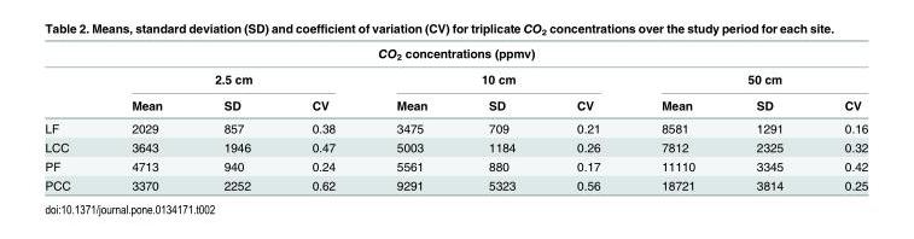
<table><thead><tr><td colspan="10">CO<sub>2</sub> concentrations (ppmv)</td></tr><tr><td rowspan="2"></td><td colspan="3">2.5 cm</td><td colspan="3">10 cm</td><td colspan="3">50 cm</td></tr><tr><td>Mean</td><td>SD</td><td>CV</td><td>Mean</td><td>SD</td><td>CV</td><td>Mean</td><td>SD</td><td>CV</td></tr></thead><tbody><tr><td>LF</td><td>2029</td><td>857</td><td>0.38</td><td>3475</td><td>709</td><td>0.21</td><td>8581</td><td>1291</td><td>0.16</td></tr><tr><td>LCC</td><td>3643</td><td>1946</td><td>0.47</td><td>5003</td><td>1184</td><td>0.26</td><td>7812</td><td>2325</td><td>0.32</td></tr><tr><td>PF</td><td>4713</td><td>940</td><td>0.24</td><td>5561</td><td>880</td><td>0.17</td><td>11110</td><td>3345</td><td>0.42</td></tr><tr><td>PCC</td><td>3370</td><td>2252</td><td>0.62</td><td>9291</td><td>5323</td><td>0.56</td><td>18721</td><td>3814</td><td>0.25</td></tr></tbody></table>